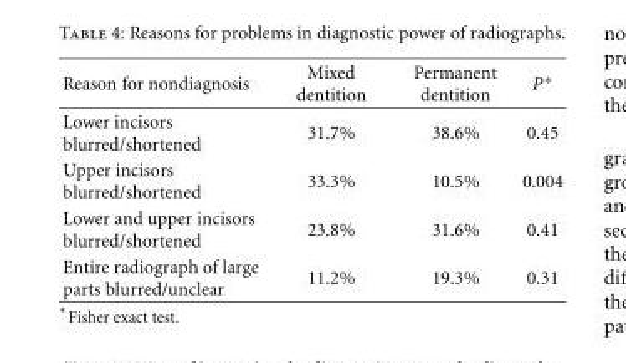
<table><thead><tr><td>Reason for nondiagnosis</td><td>Mixed dentition</td><td>Permanent dentition</td><td>P∗</td></tr></thead><tbody><tr><td>Lower incisors blurred/shortened</td><td>31.7%</td><td>38.6%</td><td>0.45</td></tr><tr><td>Upper incisors blurred/shortened</td><td>33.3%</td><td>10.5%</td><td>0.004</td></tr><tr><td>Lower and upper incisors blurred/shortened</td><td>23.8%</td><td>31.6%</td><td>0.41</td></tr><tr><td>Entire radiograph of large parts blurred/unclear</td><td>11.2%</td><td>19.3%</td><td>0.31</td></tr></tbody></table>